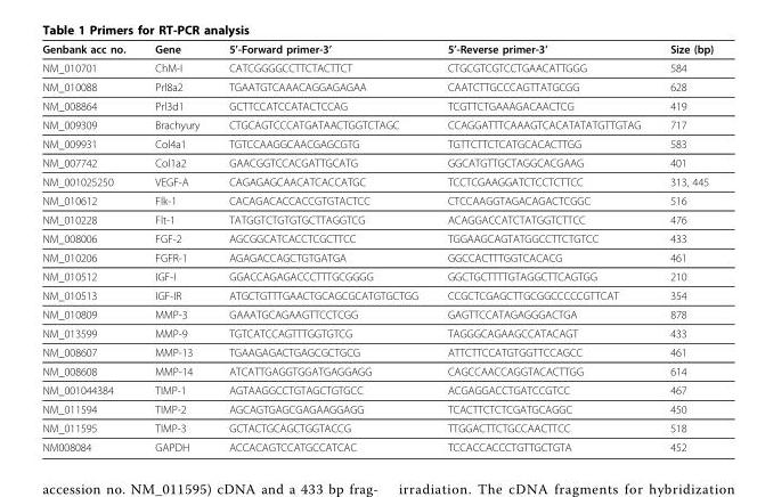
<table><thead><tr><td>Genbank acc no.</td><td>Gene</td><td>5’-Forward primer-3’</td><td>5’-Reverse primer-3’</td><td>Size (bp)</td></tr></thead><tbody><tr><td>NM_010701</td><td>ChM-I</td><td>CATCGGGGCCTTCTACTTCT</td><td>CTGCGTCGTCCTGAACATTGGG</td><td>584</td></tr><tr><td>NM_010088</td><td>Prl8a2</td><td>TGAATGTCAAACAGGAGAGAA</td><td>CAATCTTGCCCAGTTATGCGG</td><td>628</td></tr><tr><td>NM_008864</td><td>Prl3d1</td><td>GCTTCCATCCATACTCCAG</td><td>TCGTTCTGAAAGACAACTCG</td><td>419</td></tr><tr><td>NM_009309</td><td>Brachyury</td><td>CTGCAGTCCCATGATAACTGGTCTAGC</td><td>CCAGGATTTCAAAGTCACATATATGTTGTAG</td><td>717</td></tr><tr><td>NM_009931</td><td>Col4a1</td><td>TGTCCAAGGCAACGAGCGTG</td><td>TGTTCTTCTCATGCACACTTGG</td><td>583</td></tr><tr><td>NM_007742</td><td>Col1a2</td><td>GAACGGTCCACGATTGCATG</td><td>GGCATGTTGCTAGGCACGAAG</td><td>401</td></tr><tr><td>NM_001025250</td><td>VEGF-A</td><td>CAGAGAGCAACATCACCATGC</td><td>TCCTCGAAGGATCTCCTCTTCC</td><td>313, 445</td></tr><tr><td>NM_010612</td><td>Flk-1</td><td>CACAGACACCACCGTGTACTCC</td><td>CTCCAAGGTAGACAGACTCGGC</td><td>516</td></tr><tr><td>NM_010228</td><td>Flt-1</td><td>TATGGTCTGTGTGCTTAGGTCG</td><td>ACAGGACCATCTATGGTCTTCC</td><td>476</td></tr><tr><td>NM_008006</td><td>FGF-2</td><td>AGCGGCATCACCTCGCTTCC</td><td>TGGAAGCAGTATGGCCTTCTGTCC</td><td>433</td></tr><tr><td>NM_010206</td><td>FGFR-1</td><td>AGAGACCAGCTGTGATGA</td><td>GGCCACTTTGGTCACACG</td><td>461</td></tr><tr><td>NM_010512</td><td>IGF-I</td><td>GGACCAGAGACCCTTTGCGGGG</td><td>GGCTGCTTTTGTAGGCTTCAGTGG</td><td>210</td></tr><tr><td>NM_010513</td><td>IGF-IR</td><td>ATGCTGTTTGAACTGCAGCGCATGTGCTGG</td><td>CCGCTCGAGCTTGCGGCCCCCGTTCAT</td><td>354</td></tr><tr><td>NM_010809</td><td>MMP-3</td><td>GAAATGCAGAAGTTCCTCGG</td><td>GAGTTCCATAGAGGGACTGA</td><td>878</td></tr><tr><td>NM_013599</td><td>MMP-9</td><td>TGTCATCCAGTTTGGTGTCG</td><td>TAGGGCAGAAGCCATACAGT</td><td>433</td></tr><tr><td>NM_008607</td><td>MMP-13</td><td>TGAAGAGACTGAGCGCTGCG</td><td>ATTCTTCCATGTGGTTCCAGCC</td><td>461</td></tr><tr><td>NM_008608</td><td>MMP-14</td><td>ATCATTGAGGTGGATGAGGAGG</td><td>CAGCCAACCAGGTACACTTGG</td><td>614</td></tr><tr><td>NM_001044384</td><td>TIMP-1</td><td>AGTAAGGCCTGTAGCTGTGCC</td><td>ACGAGGACCTGATCCGTCC</td><td>467</td></tr><tr><td>NM_011594</td><td>TIMP-2</td><td>AGCAGTGAGCGAGAAGGAGG</td><td>TCACTTCTCTCGATGCAGGC</td><td>450</td></tr><tr><td>NM_011595</td><td>TIMP-3</td><td>GCTACTGCAGCTGGTACCG</td><td>TTGGACTTCTGCCAACTTCC</td><td>518</td></tr><tr><td>NM008084</td><td>GAPDH</td><td>ACCACAGTCCATGCCATCAC</td><td>TCCACCACCCTGTTGCTGTA</td><td>452</td></tr></tbody></table>